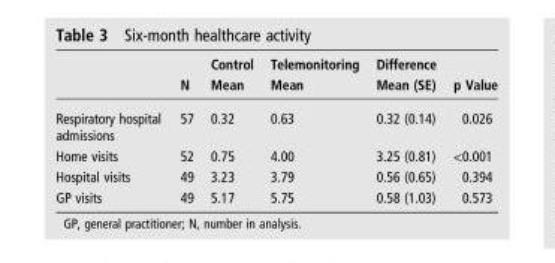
<table><thead><tr><td rowspan="2"></td><td rowspan="2">N</td><td rowspan="2">Control Mean</td><td rowspan="2">Telemonitoring Mean</td><td rowspan="2">Difference Mean (SE)</td><td rowspan="2">p Value</td></tr><tr></tr></thead><tbody><tr><td>Respiratory hospital admissions</td><td>57</td><td>0.32</td><td>0.63</td><td>0.32 (0.14)</td><td>0.026</td></tr><tr><td>Home visits</td><td>52</td><td>0.75</td><td>4.00</td><td>3.25 (0.81)</td><td>&lt;0.001</td></tr><tr><td>Hospital visits</td><td>49</td><td>3.23</td><td>3.79</td><td>0.56 (0.65)</td><td>0.394</td></tr><tr><td>GP visits</td><td>49</td><td>5.17</td><td>5.75</td><td>0.58 (1.03)</td><td>0.573</td></tr></tbody></table>